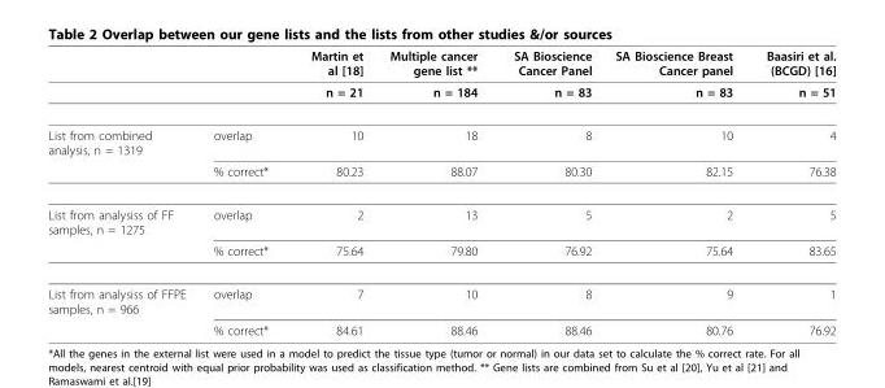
<table><thead><tr><td></td><td></td><td>Martin et al [18]</td><td>Multiple cancer gene list **</td><td>SA Bioscience Cancer Panel</td><td>SA Bioscience Breast Cancer panel</td><td>Baasiri et al. (BCGD) [16]</td></tr></thead><tbody><tr><td></td><td></td><td>n = 21</td><td>n = 184</td><td>n = 83</td><td>n = 83</td><td>n = 51</td></tr><tr><td rowspan="2">List from combined analysis, n = 1319</td><td>overlap</td><td>10</td><td>18</td><td>8</td><td>10</td><td>4</td></tr><tr><td>% correct*</td><td>80.23</td><td>88.07</td><td>80.30</td><td>82.15</td><td>76.38</td></tr><tr><td rowspan="2">List from analysiss of FF samples, n = 1275</td><td>overlap</td><td>2</td><td>13</td><td>5</td><td>2</td><td>5</td></tr><tr><td>% correct*</td><td>75.64</td><td>79.80</td><td>76.92</td><td>75.64</td><td>83.65</td></tr><tr><td rowspan="2">List from analysiss of FFPE samples, n = 966</td><td>overlap</td><td>7</td><td>10</td><td>8</td><td>9</td><td>1</td></tr><tr><td>% correct*</td><td>84.61</td><td>88.46</td><td>88.46</td><td>80.76</td><td>76.92</td></tr></tbody></table>